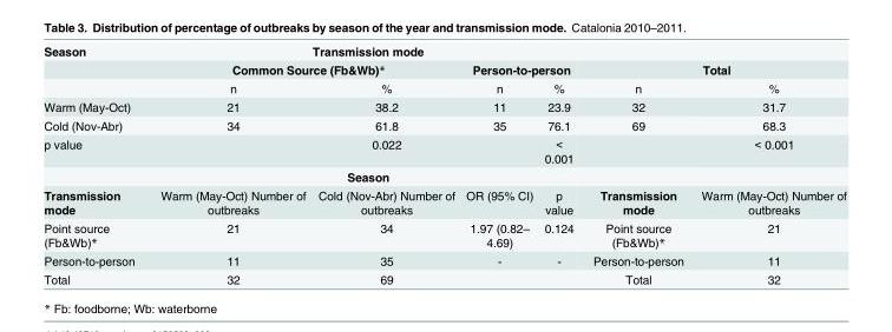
<table><tbody><tr><td rowspan="3">Season</td><td colspan="4">Transmission mode</td><td></td><td></td></tr><tr><td colspan="2">Common Source (Fb&amp;Wb)*</td><td colspan="2">Person-to-person</td><td colspan="2">Total</td></tr><tr><td>n</td><td>%</td><td>n</td><td>%</td><td>n</td><td>%</td></tr><tr><td>Warm (May-Oct)</td><td>21</td><td>38.2</td><td>11</td><td>23.9</td><td>32</td><td>31.7</td></tr><tr><td>Cold (Nov-Abr)</td><td>34</td><td>61.8</td><td>35</td><td>76.1</td><td>69</td><td>68.3</td></tr><tr><td rowspan="2">p value</td><td></td><td>0.022</td><td></td><td>&lt; 0.001</td><td></td><td>&lt; 0.001</td></tr><tr><td colspan="4">Season</td><td></td><td></td></tr><tr><td>Transmission mode</td><td>Warm (May-Oct) Number of outbreaks</td><td>Cold (Nov-Abr) Number of outbreaks</td><td>OR (95% CI)</td><td>p value</td><td>Transmission mode</td><td>Warm (May-Oct) Number of outbreaks</td></tr><tr><td>Point source (Fb&amp;Wb)*</td><td>21</td><td>34</td><td>1.97 (0.82– 4.69)</td><td>0.124</td><td>Point source (Fb&amp;Wb)*</td><td>21</td></tr><tr><td>Person-to-person</td><td>11</td><td>35</td><td>-</td><td>-</td><td>Person-to-person</td><td>11</td></tr><tr><td>Total</td><td>32</td><td>69</td><td></td><td></td><td>Total</td><td>32</td></tr></tbody></table>